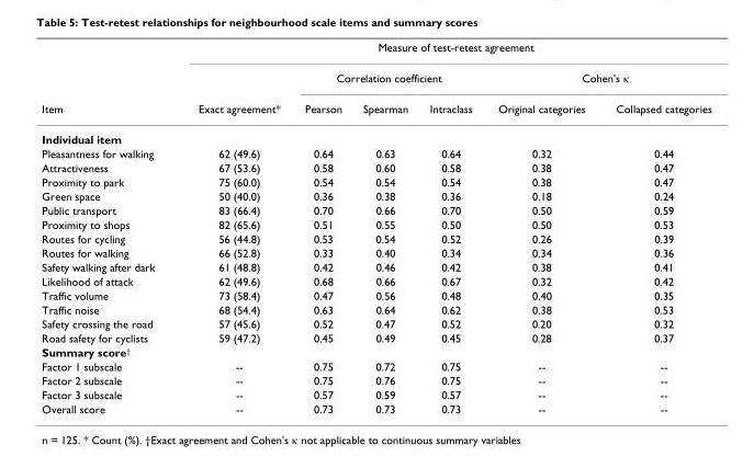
<table><thead><tr><td rowspan="3">Item</td><td colspan="6">Measure of test-retest agreement</td></tr><tr><td rowspan="2">Exact agreement*</td><td colspan="3">Correlation coefficient</td><td colspan="2">Cohen&#x27;s κ</td></tr><tr><td>Pearson</td><td>Spearman</td><td>Intraclass</td><td>Original categories</td><td>Collapsed categories</td></tr></thead><tbody><tr><td colspan="7">Individual item</td></tr><tr><td>Pleasantness for walking</td><td>62 (49.6)</td><td>0.64</td><td>0.63</td><td>0.64</td><td>0.32</td><td>0.44</td></tr><tr><td>Attractiveness</td><td>67 (53.6)</td><td>0.58</td><td>0.60</td><td>0.58</td><td>0.38</td><td>0.47</td></tr><tr><td>Proximity to park</td><td>75 (60.0)</td><td>0.54</td><td>0.54</td><td>0.54</td><td>0.38</td><td>0.47</td></tr><tr><td>Green space</td><td>50 (40.0)</td><td>0.36</td><td>0.38</td><td>0.36</td><td>0.18</td><td>0.24</td></tr><tr><td>Public transport</td><td>83 (66.4)</td><td>0.70</td><td>0.66</td><td>0.70</td><td>0.50</td><td>0.59</td></tr><tr><td>Proximity to shops</td><td>82 (65.6)</td><td>0.51</td><td>0.55</td><td>0.50</td><td>0.50</td><td>0.53</td></tr><tr><td>Routes for cycling</td><td>56 (44.8)</td><td>0.53</td><td>0.54</td><td>0.52</td><td>0.26</td><td>0.39</td></tr><tr><td>Routes for walking</td><td>66 (52.8)</td><td>0.33</td><td>0.40</td><td>0.34</td><td>0.34</td><td>0.36</td></tr><tr><td>Safety walking after dark</td><td>61 (48.8)</td><td>0.42</td><td>0.46</td><td>0.42</td><td>0.38</td><td>0.41</td></tr><tr><td>Likelihood of attack</td><td>62 (49.6)</td><td>0.68</td><td>0.66</td><td>0.67</td><td>0.32</td><td>0.42</td></tr><tr><td>Traffic volume</td><td>73 (58.4)</td><td>0.47</td><td>0.56</td><td>0.48</td><td>0.40</td><td>0.35</td></tr><tr><td>Traffic noise</td><td>68 (54.4)</td><td>0.63</td><td>0.64</td><td>0.62</td><td>0.38</td><td>0.53</td></tr><tr><td>Safety crossing the road</td><td>57 (45.6)</td><td>0.52</td><td>0.47</td><td>0.52</td><td>0.20</td><td>0.32</td></tr><tr><td>Road safety for cyclists</td><td>59 (47.2)</td><td>0.45</td><td>0.49</td><td>0.45</td><td>0.28</td><td>0.37</td></tr><tr><td colspan="7">Summary score<sup>†</sup></td></tr><tr><td>Factor 1 subscale</td><td>--</td><td>0.75</td><td>0.72</td><td>0.75</td><td>--</td><td>--</td></tr><tr><td>Factor 2 subscale</td><td>--</td><td>0.75</td><td>0.76</td><td>0.75</td><td>--</td><td>--</td></tr><tr><td>Factor 3 subscale</td><td>--</td><td>0.57</td><td>0.59</td><td>0.57</td><td>--</td><td>--</td></tr><tr><td>Overall score</td><td>--</td><td>0.73</td><td>0.73</td><td>0.73</td><td>--</td><td>--</td></tr></tbody></table>